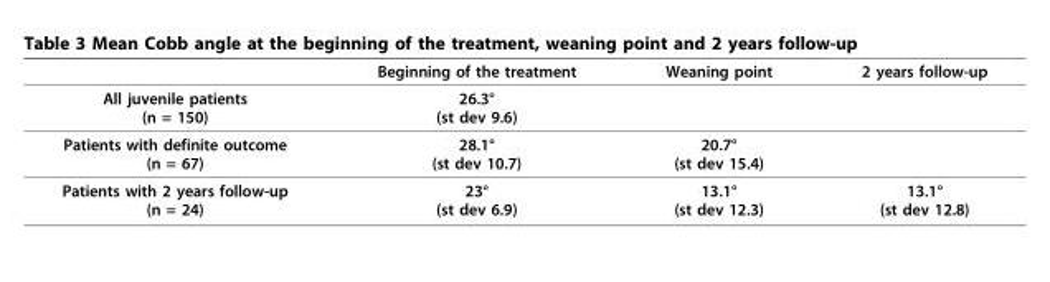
<table><thead><tr><td></td><td>Beginning of the treatment</td><td>Weaning point</td><td>2 years follow-up</td></tr></thead><tbody><tr><td>All juvenile patients (n = 150)</td><td>26.3° (st dev 9.6)</td><td></td><td></td></tr><tr><td>Patients with definite outcome (n = 67)</td><td>28.1° (st dev 10.7)</td><td>20.7° (st dev 15.4)</td><td></td></tr><tr><td>Patients with 2 years follow-up (n = 24)</td><td>23° (st dev 6.9)</td><td>13.1° (st dev 12.3)</td><td>13.1° (st dev 12.8)</td></tr></tbody></table>